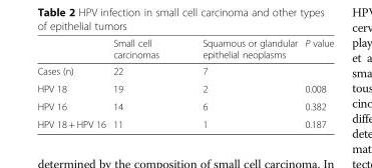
<table><thead><tr><td></td><td>Small cell carcinomas</td><td>Squamous or glandular epithelial neoplasms</td><td>P value</td></tr></thead><tbody><tr><td>Cases (n)</td><td>22</td><td>7</td><td></td></tr><tr><td>HPV 18</td><td>19</td><td>2</td><td>0.008</td></tr><tr><td>HPV 16</td><td>14</td><td>6</td><td>0.382</td></tr><tr><td>HPV 18 + HPV 16</td><td>11</td><td>1</td><td>0.187</td></tr></tbody></table>